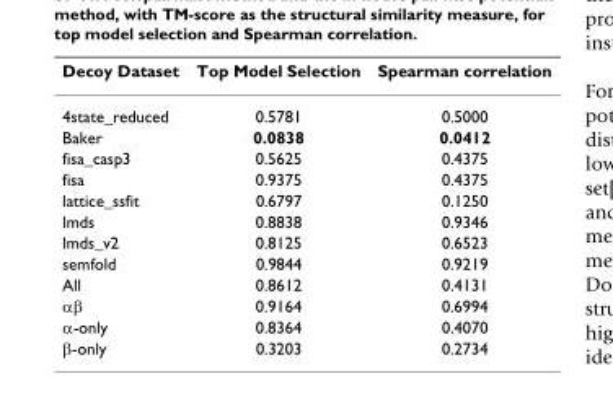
<table><thead><tr><td>Decoy Dataset</td><td>Top Model Selection</td><td>Spearman correlation</td></tr></thead><tbody><tr><td>4state_reduced</td><td>0.5781</td><td>0.5000</td></tr><tr><td>Baker</td><td>0.0838</td><td>0.0412</td></tr><tr><td>fisa_casp3</td><td>0.5625</td><td>0.4375</td></tr><tr><td>fisa</td><td>0.9375</td><td>0.4375</td></tr><tr><td>lattice_ssfit</td><td>0.6797</td><td>0.1250</td></tr><tr><td>lmds</td><td>0.8838</td><td>0.9346</td></tr><tr><td>lmds_v2</td><td>0.8125</td><td>0.6523</td></tr><tr><td>semfold</td><td>0.9844</td><td>0.9219</td></tr><tr><td>All</td><td>0.8612</td><td>0.4131</td></tr><tr><td>αβ</td><td>0.9164</td><td>0.6994</td></tr><tr><td>α-only</td><td>0.8364</td><td>0.4070</td></tr><tr><td>β-only</td><td>0.3203</td><td>0.2734</td></tr></tbody></table>